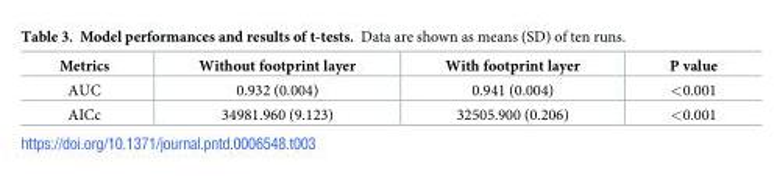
<table><thead><tr><td>Metrics</td><td>Without footprint layer</td><td>With footprint layer</td><td>P value</td></tr></thead><tbody><tr><td>AUC</td><td>0.932 (0.004)</td><td>0.941 (0.004)</td><td>&lt;0.001</td></tr><tr><td>AICc</td><td>34981.960 (9.123)</td><td>32505.900 (0.206)</td><td>&lt;0.001</td></tr></tbody></table>